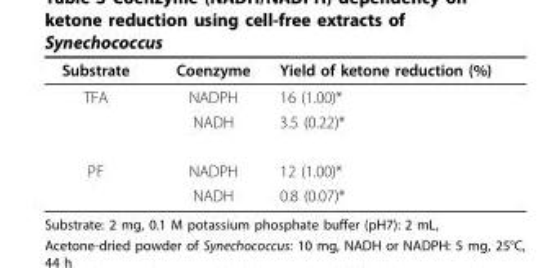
<table><thead><tr><td>Substrate</td><td>Coenzyme</td><td>Yield of ketone reduction (%)</td></tr></thead><tbody><tr><td rowspan="2">TFA</td><td>NADPH</td><td>16 (1.00)*</td></tr><tr><td>NADH</td><td>3.5 (0.22)*</td></tr><tr><td rowspan="2">PF</td><td>NADPH</td><td>12 (1.00)*</td></tr><tr><td>NADH</td><td>0.8 (0.07)*</td></tr></tbody></table>